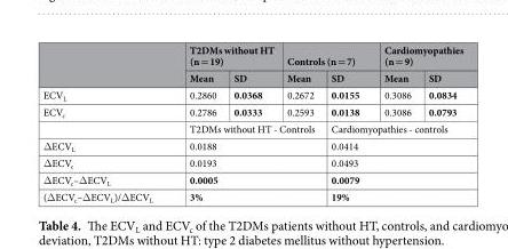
<table><thead><tr><td rowspan="2"></td><td colspan="2">T2DMs without HT (n = 19)</td><td colspan="2">Controls (n = 7)</td><td colspan="2">Cardiomyopathies (n = 9)</td></tr><tr><td>Mean</td><td>SD</td><td>Mean</td><td>SD</td><td>Mean</td><td>SD</td></tr></thead><tbody><tr><td>ECV<sub>L</sub></td><td>0.2860</td><td>0.0368</td><td>0.2672</td><td>0.0155</td><td>0.3086</td><td>0.0834</td></tr><tr><td rowspan="2">ECV<sub>c</sub></td><td>0.2786</td><td>0.0333</td><td>0.2593</td><td>0.0138</td><td>0.3086</td><td>0.0793</td></tr><tr><td colspan="3">T2DMs without HT - Controls</td><td colspan="3">Cardiomyopathies - controls</td></tr><tr><td>ΔECV<sub>L</sub></td><td colspan="3">0.0188</td><td colspan="3">0.0414</td></tr><tr><td>ΔECV<sub>c</sub></td><td colspan="3">0.0193</td><td colspan="3">0.0493</td></tr><tr><td>ΔECV<sub>c</sub>–ΔECV<sub>L</sub></td><td colspan="3">0.0005</td><td colspan="3">0.0079</td></tr><tr><td>(ΔECV<sub>c</sub>–ΔECV<sub>L</sub>)/ΔECV<sub>L</sub></td><td colspan="3">3%</td><td colspan="3">19%</td></tr></tbody></table>